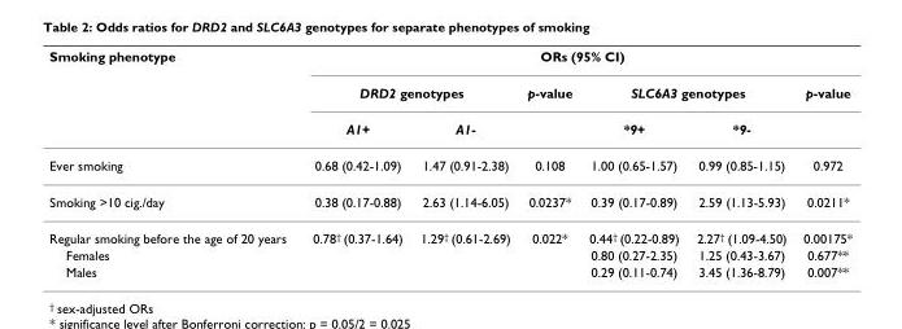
<table><thead><tr><td rowspan="3">Smoking phenotype</td><td colspan="6">ORs (95% CI)</td></tr><tr><td colspan="2">DRD2 genotypes</td><td rowspan="2">p-value</td><td colspan="2">SLC6A3 genotypes</td><td rowspan="2">p-value</td></tr><tr><td>A1+</td><td>A1-</td><td>*9+</td><td>*9-</td></tr></thead><tbody><tr><td>Ever smoking</td><td>0.68 (0.42-1.09)</td><td>1.47 (0.91-2.38)</td><td>0.108</td><td>1.00 (0.65-1.57)</td><td>0.99 (0.85-1.15)</td><td>0.972</td></tr><tr><td>Smoking &gt;10 cig./day</td><td>0.38 (0.17-0.88)</td><td>2.63 (1.14-6.05)</td><td>0.0237*</td><td>0.39 (0.17-0.89)</td><td>2.59 (1.13-5.93)</td><td>0.0211*</td></tr><tr><td>Regular smoking before the age of 20 years</td><td>0.78<sup>†</sup> (0.37-1.64)</td><td>1.29<sup>†</sup> (0.61-2.69)</td><td>0.022*</td><td>0.44<sup>†</sup> (0.22-0.89)</td><td>2.27<sup>†</sup> (1.09-4.50)</td><td>0.00175*</td></tr><tr><td>Females</td><td></td><td></td><td></td><td>0.80 (0.27-2.35)</td><td>1.25 (0.43-3.67)</td><td>0.677**</td></tr><tr><td>Males</td><td></td><td></td><td></td><td>0.29 (0.11-0.74)</td><td>3.45 (1.36-8.79)</td><td>0.007**</td></tr></tbody></table>